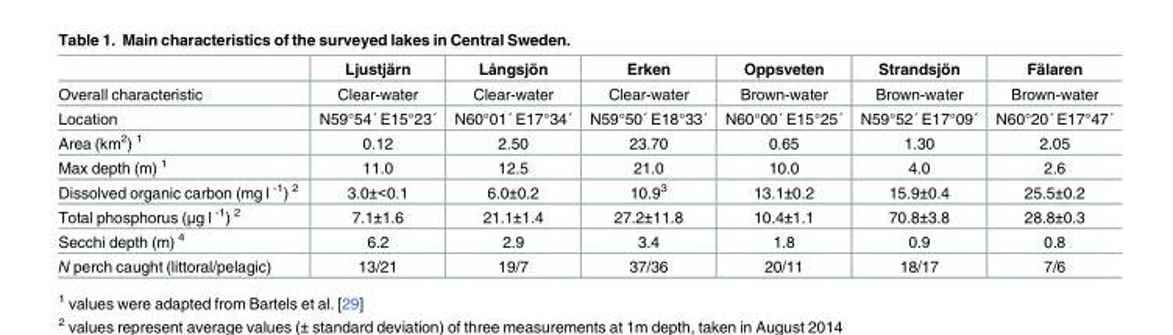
<table><thead><tr><td></td><td>Ljustjärn</td><td>Långsjön</td><td>Erken</td><td>Oppsveten</td><td>Strandsjön</td><td>Fälaren</td></tr></thead><tbody><tr><td>Overall characteristic</td><td>Clear-water</td><td>Clear-water</td><td>Clear-water</td><td>Brown-water</td><td>Brown-water</td><td>Brown-water</td></tr><tr><td>Location</td><td>N59°54´ E15°23´</td><td>N60°01´ E17°34´</td><td>N59°50´ E18°33´</td><td>N60°00´ E15°25´</td><td>N59°52´ E17°09´</td><td>N60°20´ E17°47´</td></tr><tr><td>Area (km<sup>2</sup>) <sup>1</sup></td><td>0.12</td><td>2.50</td><td>23.70</td><td>0.65</td><td>1.30</td><td>2.05</td></tr><tr><td>Max depth (m) <sup>1</sup></td><td>11.0</td><td>12.5</td><td>21.0</td><td>10.0</td><td>4.0</td><td>2.6</td></tr><tr><td>Dissolved organic carbon (mg l <sup>-1</sup>) <sup>2</sup></td><td>3.0±&lt;0.1</td><td>6.0±0.2</td><td>10.9<sup>3</sup></td><td>13.1±0.2</td><td>15.9±0.4</td><td>25.5±0.2</td></tr><tr><td>Total phosphorus (μg l <sup>-1</sup>) <sup>2</sup></td><td>7.1±1.6</td><td>21.1±1.4</td><td>27.2±11.8</td><td>10.4±1.1</td><td>70.8±3.8</td><td>28.8±0.3</td></tr><tr><td>Secchi depth (m) <sup>4</sup></td><td>6.2</td><td>2.9</td><td>3.4</td><td>1.8</td><td>0.9</td><td>0.8</td></tr><tr><td>N perch caught (littoral/pelagic)</td><td>13/21</td><td>19/7</td><td>37/36</td><td>20/11</td><td>18/17</td><td>7/6</td></tr></tbody></table>